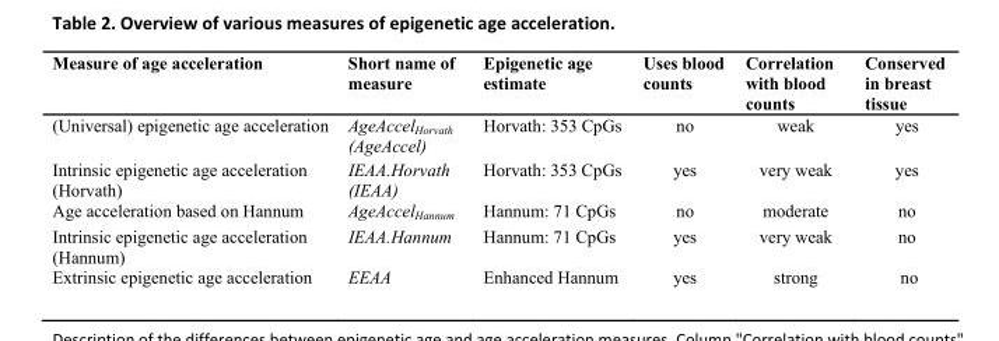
<table><thead><tr><td>Measure of age acceleration</td><td>Short name of measure</td><td>Epigenetic age estimate</td><td>Uses blood counts</td><td>Correlation with blood counts</td><td>Conserved in breast tissue</td></tr></thead><tbody><tr><td>(Universal) epigenetic age acceleration</td><td>AgeAccel<sub>Horvath</sub> (AgeAccel)</td><td>Horvath: 353 CpGs</td><td>no</td><td>weak</td><td>yes</td></tr><tr><td>Intrinsic epigenetic age acceleration (Horvath)</td><td>IEAA.Horvath (IEAA)</td><td>Horvath: 353 CpGs</td><td>yes</td><td>very weak</td><td>yes</td></tr><tr><td>Age acceleration based on Hannum</td><td>AgeAccel<sub>Hannum</sub></td><td>Hannum: 71 CpGs</td><td>no</td><td>moderate</td><td>no</td></tr><tr><td>Intrinsic epigenetic age acceleration (Hannum)</td><td>IEAA.Hannum</td><td>Hannum: 71 CpGs</td><td>yes</td><td>very weak</td><td>no</td></tr><tr><td>Extrinsic epigenetic age acceleration</td><td>EEAA</td><td>Enhanced Hannum</td><td>yes</td><td>strong</td><td>no</td></tr></tbody></table>